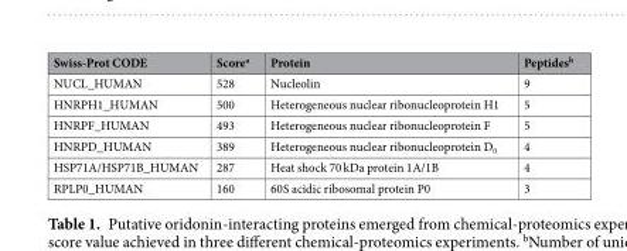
<table><thead><tr><td>Swiss-Prot CODE</td><td>Score<sup>a</sup></td><td>Protein</td><td>Peptides<sup>b</sup></td></tr></thead><tbody><tr><td>NUCL_HUMAN</td><td>528</td><td>Nucleolin</td><td>9</td></tr><tr><td>HNRPH1_HUMAN</td><td>500</td><td>Heterogeneous nuclear ribonucleoprotein H1</td><td>5</td></tr><tr><td>HNRPF_HUMAN</td><td>493</td><td>Heterogeneous nuclear ribonucleoprotein F</td><td>5</td></tr><tr><td>HNRPD_HUMAN</td><td>389</td><td>Heterogeneous nuclear ribonucleoprotein D<sub>0</sub></td><td>4</td></tr><tr><td>HSP71A/HSP71B_HUMAN</td><td>287</td><td>Heat shock 70 kDa protein 1A/1B</td><td>4</td></tr><tr><td>RPLP0_HUMAN</td><td>160</td><td>60S acidic ribosomal protein P0</td><td>3</td></tr></tbody></table>